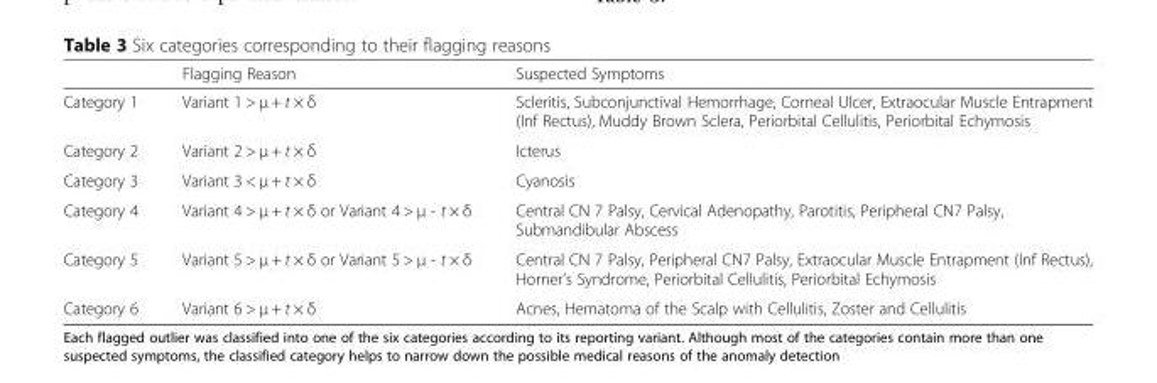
<table><thead><tr><td></td><td>Flagging Reason</td><td>Suspected Symptoms</td></tr></thead><tbody><tr><td>Category 1</td><td>Variant 1 &gt; μ + t × δ</td><td>Scleritis, Subconjunctival Hemorrhage, Corneal Ulcer, Extraocular Muscle Entrapment (Inf Rectus), Muddy Brown Sclera, Periorbital Cellulitis, Periorbital Echymosis</td></tr><tr><td>Category 2</td><td>Variant 2 &gt; μ + t × δ</td><td>Icterus</td></tr><tr><td>Category 3</td><td>Variant 3 &lt; μ + t × δ</td><td>Cyanosis</td></tr><tr><td>Category 4</td><td>Variant 4 &gt; μ + t × δ or Variant 4 &gt; μ - t × δ</td><td>Central CN 7 Palsy, Cervical Adenopathy, Parotitis, Peripheral CN7 Palsy, Submandibular Abscess</td></tr><tr><td>Category 5</td><td>Variant 5 &gt; μ + t × δ or Variant 5 &gt; μ - t × δ</td><td>Central CN 7 Palsy, Peripheral CN7 Palsy, Extraocular Muscle Entrapment (Inf Rectus), Horner’s Syndrome, Periorbital Cellulitis, Periorbital Echymosis</td></tr><tr><td>Category 6</td><td>Variant 6 &gt; μ + t × δ</td><td>Acnes, Hematoma of the Scalp with Cellulitis, Zoster and Cellulitis</td></tr></tbody></table>